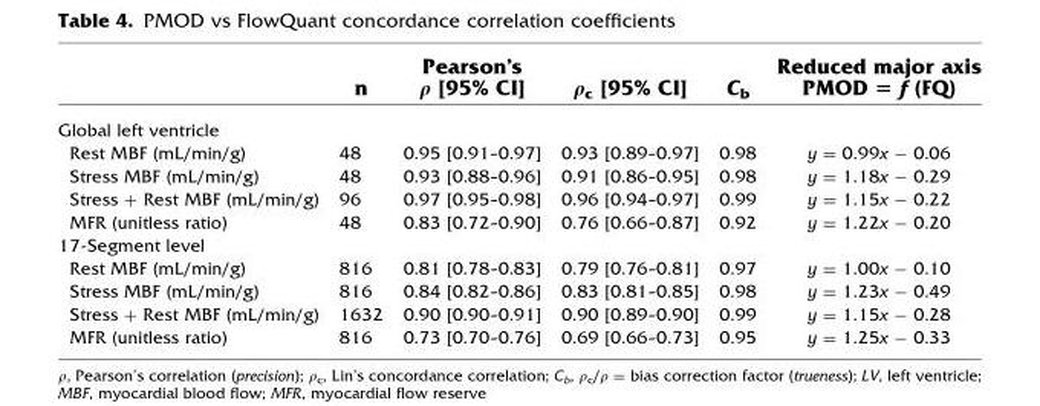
<table><thead><tr><td></td><td>n</td><td>Pearson’s ρ [95% CI]</td><td>ρ<sub>c</sub> [95% CI]</td><td>C<sub>b</sub></td><td>Reduced major axis PMOD = f (FQ)</td></tr></thead><tbody><tr><td colspan="6">Global left ventricle</td></tr><tr><td>Rest MBF (mL/min/g)</td><td>48</td><td>0.95 [0.91–0.97]</td><td>0.93 [0.89–0.97]</td><td>0.98</td><td>y = 0.99x - 0.06</td></tr><tr><td>Stress MBF (mL/min/g)</td><td>48</td><td>0.93 [0.88–0.96]</td><td>0.91 [0.86–0.95]</td><td>0.98</td><td>y = 1.18x - 0.29</td></tr><tr><td>Stress + Rest MBF (mL/min/g)</td><td>96</td><td>0.97 [0.95–0.98]</td><td>0.96 [0.94–0.97]</td><td>0.99</td><td>y = 1.15x - 0.22</td></tr><tr><td>MFR (unitless ratio)</td><td>48</td><td>0.83 [0.72–0.90]</td><td>0.76 [0.66–0.87]</td><td>0.92</td><td>y = 1.22x - 0.20</td></tr><tr><td colspan="6">17-Segment level</td></tr><tr><td>Rest MBF (mL/min/g)</td><td>816</td><td>0.81 [0.78–0.83]</td><td>0.79 [0.76–0.81]</td><td>0.97</td><td>y = 1.00x - 0.10</td></tr><tr><td>Stress MBF (mL/min/g)</td><td>816</td><td>0.84 [0.82–0.86]</td><td>0.83 [0.81–0.85]</td><td>0.98</td><td>y = 1.23x - 0.49</td></tr><tr><td>Stress + Rest MBF (mL/min/g)</td><td>1632</td><td>0.90 [0.90–0.91]</td><td>0.90 [0.89–0.90]</td><td>0.99</td><td>y = 1.15x - 0.28</td></tr><tr><td>MFR (unitless ratio)</td><td>816</td><td>0.73 [0.70–0.76]</td><td>0.69 [0.66–0.73]</td><td>0.95</td><td>y = 1.25x - 0.33</td></tr></tbody></table>